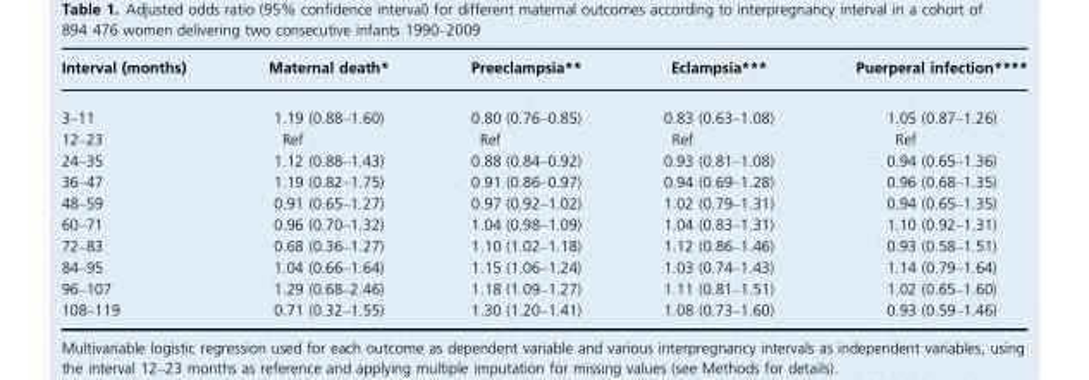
<table><thead><tr><td>Interval (months)</td><td>Maternal death*</td><td>Preeclampsia**</td><td>Eclampsia***</td><td>Puerperal infection****</td></tr></thead><tbody><tr><td>3–11</td><td>1.19 (0.88–1.60)</td><td>0.80 (0.76–0.85)</td><td>0.83 (0.63–1.08)</td><td>1.05 (0.87–1.26)</td></tr><tr><td>12–23</td><td>Ref</td><td>Ref</td><td>Ref</td><td>Ref</td></tr><tr><td>24–35</td><td>1.12 (0.88–1.43)</td><td>0.88 (0.84–0.92)</td><td>0.93 (0.81–1.08)</td><td>0.94 (0.65–1.36)</td></tr><tr><td>36–47</td><td>1.19 (0.82–1.75)</td><td>0.91 (0.86–0.97)</td><td>0.94 (0.69–1.28)</td><td>0.96 (0.68–1.35)</td></tr><tr><td>48–59</td><td>0.91 (0.65–1.27)</td><td>0.97 (0.92–1.02)</td><td>1.02 (0.79–1.31)</td><td>0.94 (0.65–1.35)</td></tr><tr><td>60–71</td><td>0.96 (0.70–1.32)</td><td>1.04 (0.98–1.09)</td><td>1.04 (0.83–1.31)</td><td>1.10 (0.92–1.31)</td></tr><tr><td>72–83</td><td>0.68 (0.36–1.27)</td><td>1.10 (1.02–1.18)</td><td>1.12 (0.86–1.46)</td><td>0.93 (0.58–1.51)</td></tr><tr><td>84–95</td><td>1.04 (0.66–1.64)</td><td>1.15 (1.06–1.24)</td><td>1.03 (0.74–1.43)</td><td>1.14 (0.79–1.64)</td></tr><tr><td>96–107</td><td>1.29 (0.68–2.46)</td><td>1.18 (1.09–1.27)</td><td>1.11 (0.81–1.51)</td><td>1.02 (0.65–1.60)</td></tr><tr><td>108–119</td><td>0.71 (0.32–1.55)</td><td>1.30 (1.20–1.41)</td><td>1.08 (0.73–1.60)</td><td>0.93 (0.59–1.46)</td></tr></tbody></table>